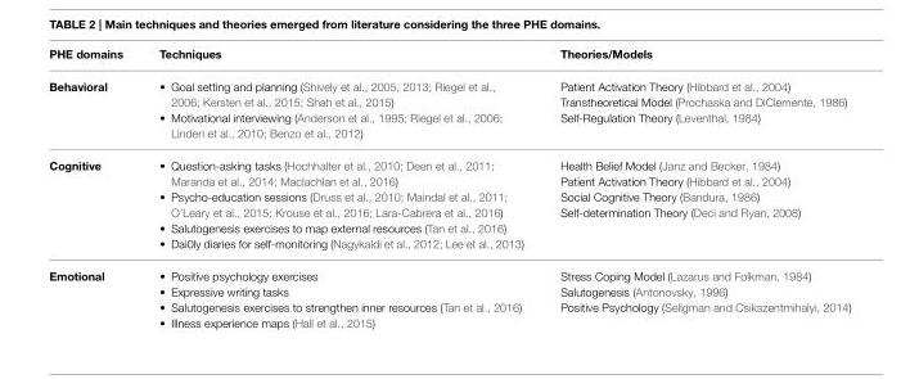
<table><thead><tr><td>PHE domains</td><td>Techniques</td><td>Theories/Models</td></tr></thead><tbody><tr><td>Behavioral</td><td>• Goal setting and planning (Shively et al., 2005, 2013; Riegel et al., 2006; Kersten et al., 2015; Shah et al., 2015) • Motivational interviewing (Anderson et al., 1995; Riegel et al., 2006; Linden et al., 2010; Benzo et al., 2012)</td><td>Patient Activation Theory (Hibbard et al., 2004) Transtheoretical Model (Prochaska and DiClemente, 1986) Self-Regulation Theory (Leventhal, 1984)</td></tr><tr><td>Cognitive</td><td>• Question-asking tasks (Hochhalter et al., 2010; Deen et al., 2011; Maranda et al., 2014; Maclachlan et al., 2016) • Psycho-education sessions (Druss et al., 2010; Maindal et al., 2011; O’Leary et al., 2015; Krouse et al., 2016; Lara-Cabrera et al., 2016) • Salutogenesis exercises to map external resources (Tan et al., 2016) • Dai0ly diaries for self-monitoring (Nagykaldi et al., 2012; Lee et al., 2013)</td><td>Health Belief Model (Janz and Becker, 1984) Patient Activation Theory (Hibbard et al., 2004) Social Cognitive Theory (Bandura, 1986) Self-determination Theory (Deci and Ryan, 2008)</td></tr><tr><td>Emotional</td><td>• Positive psychology exercises • Expressive writing tasks • Salutogenesis exercises to strengthen inner resources (Tan et al., 2016) • Illness experience maps (Hall et al., 2015)</td><td>Stress Coping Model (Lazarus and Folkman, 1984) Salutogenesis (Antonovsky, 1996) Positive Psychology (Seligman and Csikszentmihalyi, 2014)</td></tr></tbody></table>